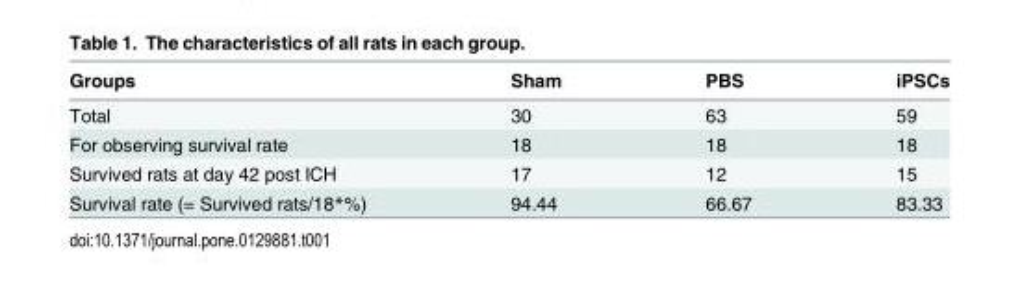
<table><thead><tr><td>Groups</td><td>Sham</td><td>PBS</td><td>iPSCs</td></tr></thead><tbody><tr><td>Total</td><td>30</td><td>63</td><td>59</td></tr><tr><td>For observing survival rate</td><td>18</td><td>18</td><td>18</td></tr><tr><td>Survived rats at day 42 post ICH</td><td>17</td><td>12</td><td>15</td></tr><tr><td>Survival rate (= Survived rats/18*%)</td><td>94.44</td><td>66.67</td><td>83.33</td></tr></tbody></table>